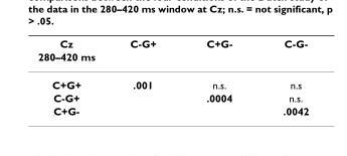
<table><thead><tr><td rowspan="2">Cz 280–420 ms</td><td rowspan="2">C-G+</td><td rowspan="2">C+G-</td><td rowspan="2">C-G-</td></tr><tr></tr></thead><tbody><tr><td>C+G+</td><td>.001</td><td>n.s.</td><td>n.s</td></tr><tr><td>C-G+</td><td></td><td>.0004</td><td>n.s.</td></tr><tr><td>C+G-</td><td></td><td></td><td>.0042</td></tr></tbody></table>